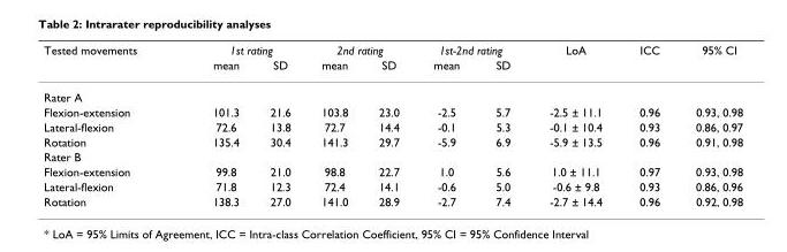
<table><thead><tr><td rowspan="2">Tested movements</td><td colspan="2">1st rating</td><td colspan="2">2nd rating</td><td colspan="2">1st-2nd rating</td><td rowspan="2">LoA</td><td rowspan="2">ICC</td><td rowspan="2">95% CI</td></tr><tr><td>mean</td><td>SD</td><td>mean</td><td>SD</td><td>mean</td><td>SD</td></tr></thead><tbody><tr><td colspan="10">Rater A</td></tr><tr><td>Flexion-extension</td><td>101.3</td><td>21.6</td><td>103.8</td><td>23.0</td><td>-2.5</td><td>5.7</td><td>-2.5 ± 11.1</td><td>0.96</td><td>0.93, 0.98</td></tr><tr><td>Lateral-flexion</td><td>72.6</td><td>13.8</td><td>72.7</td><td>14.4</td><td>-0.1</td><td>5.3</td><td>-0.1 ± 10.4</td><td>0.93</td><td>0.86, 0.97</td></tr><tr><td>Rotation</td><td>135.4</td><td>30.4</td><td>141.3</td><td>29.7</td><td>-5.9</td><td>6.9</td><td>-5.9 ± 13.5</td><td>0.96</td><td>0.91, 0.98</td></tr><tr><td colspan="10">Rater B</td></tr><tr><td>Flexion-extension</td><td>99.8</td><td>21.0</td><td>98.8</td><td>22.7</td><td>1.0</td><td>5.6</td><td>1.0 ± 11.1</td><td>0.97</td><td>0.93, 0.98</td></tr><tr><td>Lateral-flexion</td><td>71.8</td><td>12.3</td><td>72.4</td><td>14.1</td><td>-0.6</td><td>5.0</td><td>-0.6 ± 9.8</td><td>0.93</td><td>0.86, 0.96</td></tr><tr><td>Rotation</td><td>138.3</td><td>27.0</td><td>141.0</td><td>28.9</td><td>-2.7</td><td>7.4</td><td>-2.7 ± 14.4</td><td>0.96</td><td>0.92, 0.98</td></tr></tbody></table>